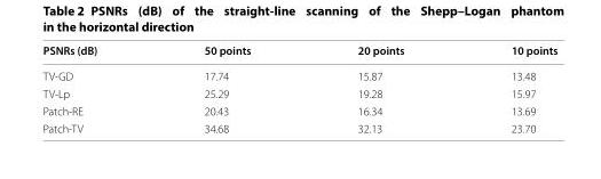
<table><thead><tr><td>PSNRs (dB)</td><td>50 points</td><td>20 points</td><td>10 points</td></tr></thead><tbody><tr><td>TV-GD</td><td>17.74</td><td>15.87</td><td>13.48</td></tr><tr><td>TV-Lp</td><td>25.29</td><td>19.28</td><td>15.97</td></tr><tr><td>Patch-RE</td><td>20.43</td><td>16.34</td><td>13.69</td></tr><tr><td>Patch-TV</td><td>34.68</td><td>32.13</td><td>23.70</td></tr></tbody></table>